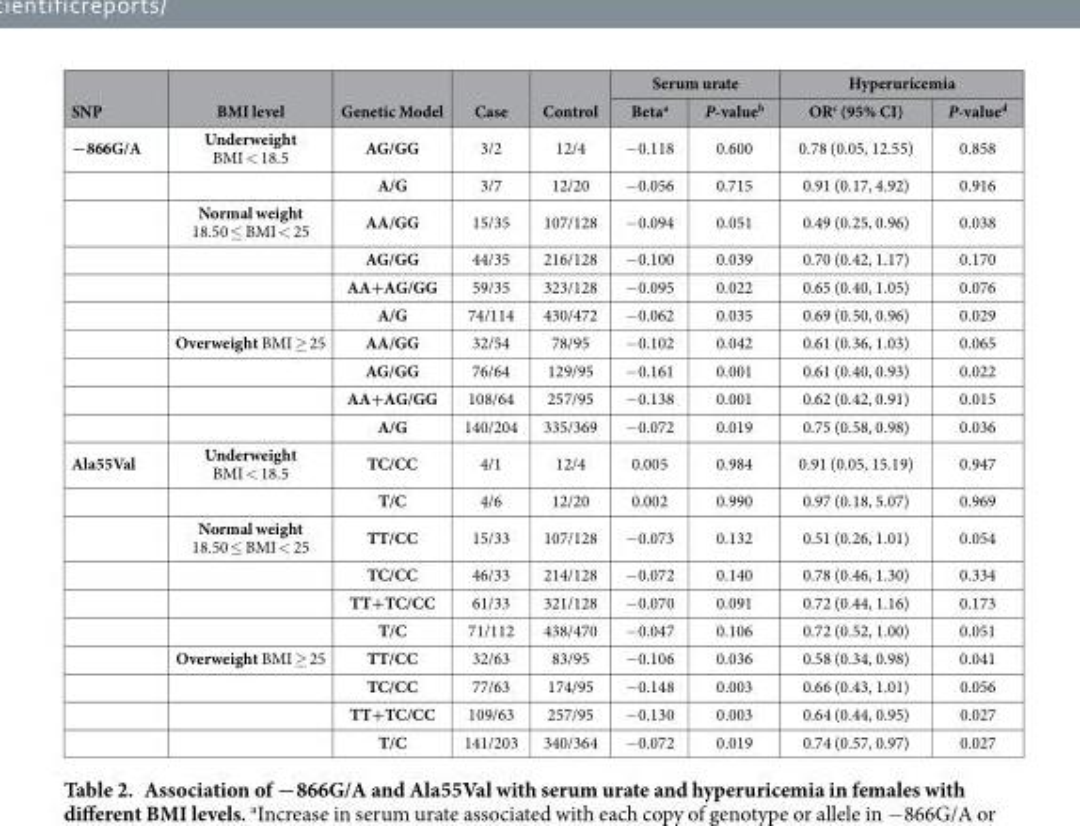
<table><thead><tr><td rowspan="2">SNP</td><td rowspan="2">BMI level</td><td rowspan="2">Genetic Model</td><td rowspan="2">Case</td><td rowspan="2">Control</td><td colspan="2">Serum urate</td><td colspan="2">Hyperuricemia</td></tr><tr><td>Beta<sup>a</sup></td><td>P-value<sup>b</sup></td><td>OR<sup>c</sup> (95% CI)</td><td>P-value<sup>d</sup></td></tr></thead><tbody><tr><td rowspan="10">−866G/A</td><td>Underweight BMI &lt; 18.5</td><td>AG/GG</td><td>3/2</td><td>12/4</td><td>− 0.118</td><td>0.600</td><td>0.78 (0.05, 12.55)</td><td>0.858</td></tr><tr><td></td><td>A/G</td><td>3/7</td><td>12/20</td><td>− 0.056</td><td>0.715</td><td>0.91 (0.17, 4.92)</td><td>0.916</td></tr><tr><td>Normal weight 18.50 ≤ BMI &lt; 25</td><td>AA/GG</td><td>15/35</td><td>107/128</td><td>− 0.094</td><td>0.051</td><td>0.49 (0.25, 0.96)</td><td>0.038</td></tr><tr><td></td><td>AG/GG</td><td>44/35</td><td>216/128</td><td>− 0.100</td><td>0.039</td><td>0.70 (0.42, 1.17)</td><td>0.170</td></tr><tr><td></td><td>AA+AG/GG</td><td>59/35</td><td>323/128</td><td>− 0.095</td><td>0.022</td><td>0.65 (0.40, 1.05)</td><td>0.076</td></tr><tr><td></td><td>A/G</td><td>74/114</td><td>430/472</td><td>− 0.062</td><td>0.035</td><td>0.69 (0.50, 0.96)</td><td>0.029</td></tr><tr><td>Overweight BMI ≥ 25</td><td>AA/GG</td><td>32/54</td><td>78/95</td><td>− 0.102</td><td>0.042</td><td>0.61 (0.36, 1.03)</td><td>0.065</td></tr><tr><td></td><td>AG/GG</td><td>76/64</td><td>129/95</td><td>− 0.161</td><td>0.001</td><td>0.61 (0.40, 0.93)</td><td>0.022</td></tr><tr><td></td><td>AA+AG/GG</td><td>108/64</td><td>257/95</td><td>− 0.138</td><td>0.001</td><td>0.62 (0.42, 0.91)</td><td>0.015</td></tr><tr><td></td><td>A/G</td><td>140/204</td><td>335/369</td><td>− 0.072</td><td>0.019</td><td>0.75 (0.58, 0.98)</td><td>0.036</td></tr><tr><td rowspan="10">Ala55Val</td><td>Underweight BMI &lt; 18.5</td><td>TC/CC</td><td>4/1</td><td>12/4</td><td>0.005</td><td>0.984</td><td>0.91 (0.05, 15.19)</td><td>0.947</td></tr><tr><td></td><td>T/C</td><td>4/6</td><td>12/20</td><td>0.002</td><td>0.990</td><td>0.97 (0.18, 5.07)</td><td>0.969</td></tr><tr><td>Normal weight 18.50 ≤ BMI &lt; 25</td><td>TT/CC</td><td>15/33</td><td>107/128</td><td>− 0.073</td><td>0.132</td><td>0.51 (0.26, 1.01)</td><td>0.054</td></tr><tr><td></td><td>TC/CC</td><td>46/33</td><td>214/128</td><td>− 0.072</td><td>0.140</td><td>0.78 (0.46, 1.30)</td><td>0.334</td></tr><tr><td></td><td>TT+TC/CC</td><td>61/33</td><td>321/128</td><td>− 0.070</td><td>0.091</td><td>0.72 (0.44, 1.16)</td><td>0.173</td></tr><tr><td></td><td>T/C</td><td>71/112</td><td>438/470</td><td>− 0.047</td><td>0.106</td><td>0.72 (0.52, 1.00)</td><td>0.051</td></tr><tr><td>Overweight BMI ≥ 25</td><td>TT/CC</td><td>32/63</td><td>83/95</td><td>− 0.106</td><td>0.036</td><td>0.58 (0.34, 0.98)</td><td>0.041</td></tr><tr><td></td><td>TC/CC</td><td>77/63</td><td>174/95</td><td>− 0.148</td><td>0.003</td><td>0.66 (0.43, 1.01)</td><td>0.056</td></tr><tr><td></td><td>TT+TC/CC</td><td>109/63</td><td>257/95</td><td>− 0.130</td><td>0.003</td><td>0.64 (0.44, 0.95)</td><td>0.027</td></tr><tr><td></td><td>T/C</td><td>141/203</td><td>340/364</td><td>− 0.072</td><td>0.019</td><td>0.74 (0.57, 0.97)</td><td>0.027</td></tr></tbody></table>